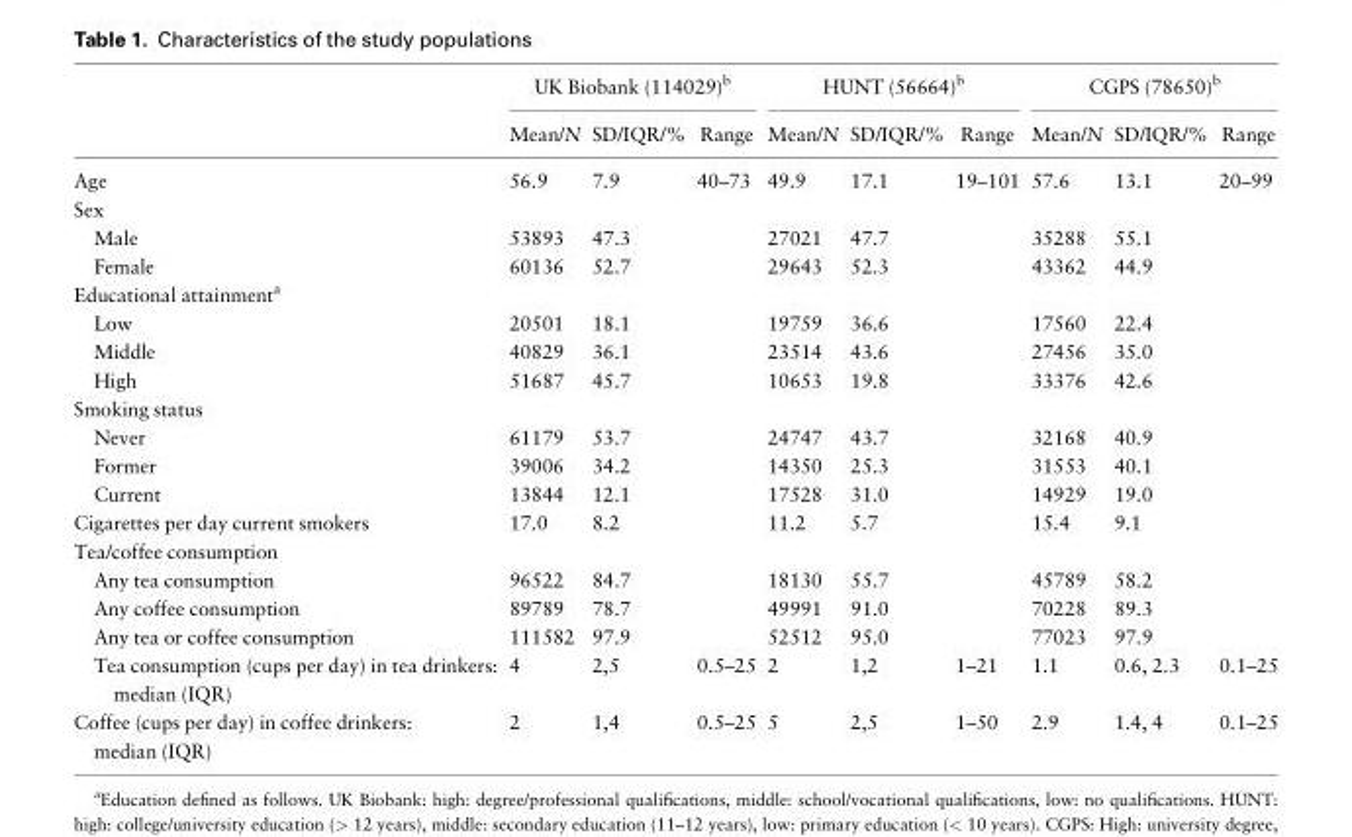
<table><thead><tr><td rowspan="2"></td><td colspan="3">UK Biobank (114029)<sup>b</sup></td><td colspan="3">HUNT (56664)<sup>b</sup></td><td colspan="3">CGPS (78650)<sup>b</sup></td></tr><tr><td>Mean/N</td><td>SD/IQR/%</td><td>Range</td><td>Mean/N</td><td>SD/IQR/%</td><td>Range</td><td>Mean/N</td><td>SD/IQR/%</td><td>Range</td></tr></thead><tbody><tr><td>Age</td><td>56.9</td><td>7.9</td><td>40–73</td><td>49.9</td><td>17.1</td><td>19–101</td><td>57.6</td><td>13.1</td><td>20–99</td></tr><tr><td colspan="10">Sex</td></tr><tr><td>Male</td><td>53893</td><td>47.3</td><td></td><td>27021</td><td>47.7</td><td></td><td>35288</td><td>55.1</td><td></td></tr><tr><td>Female</td><td>60136</td><td>52.7</td><td></td><td>29643</td><td>52.3</td><td></td><td>43362</td><td>44.9</td><td></td></tr><tr><td colspan="10">Educational attainment<sup>a</sup></td></tr><tr><td>Low</td><td>20501</td><td>18.1</td><td></td><td>19759</td><td>36.6</td><td></td><td>17560</td><td>22.4</td><td></td></tr><tr><td>Middle</td><td>40829</td><td>36.1</td><td></td><td>23514</td><td>43.6</td><td></td><td>27456</td><td>35.0</td><td></td></tr><tr><td>High</td><td>51687</td><td>45.7</td><td></td><td>10653</td><td>19.8</td><td></td><td>33376</td><td>42.6</td><td></td></tr><tr><td colspan="10">Smoking status</td></tr><tr><td>Never</td><td>61179</td><td>53.7</td><td></td><td>24747</td><td>43.7</td><td></td><td>32168</td><td>40.9</td><td></td></tr><tr><td>Former</td><td>39006</td><td>34.2</td><td></td><td>14350</td><td>25.3</td><td></td><td>31553</td><td>40.1</td><td></td></tr><tr><td>Current</td><td>13844</td><td>12.1</td><td></td><td>17528</td><td>31.0</td><td></td><td>14929</td><td>19.0</td><td></td></tr><tr><td>Cigarettes per day current smokers</td><td>17.0</td><td>8.2</td><td></td><td>11.2</td><td>5.7</td><td></td><td>15.4</td><td>9.1</td><td></td></tr><tr><td colspan="10">Tea/coffee consumption</td></tr><tr><td>Any tea consumption</td><td>96522</td><td>84.7</td><td></td><td>18130</td><td>55.7</td><td></td><td>45789</td><td>58.2</td><td></td></tr><tr><td>Any coffee consumption</td><td>89789</td><td>78.7</td><td></td><td>49991</td><td>91.0</td><td></td><td>70228</td><td>89.3</td><td></td></tr><tr><td>Any tea or coffee consumption</td><td>111582</td><td>97.9</td><td></td><td>52512</td><td>95.0</td><td></td><td>77023</td><td>97.9</td><td></td></tr><tr><td>Tea consumption (cups per day) in tea drinkers: median (IQR)</td><td>4</td><td>2,5</td><td>0.5–25</td><td>2</td><td>1,2</td><td>1–21</td><td>1.1</td><td>0.6, 2.3</td><td>0.1–25</td></tr><tr><td>Coffee (cups per day) in coffee drinkers: median (IQR)</td><td>2</td><td>1,4</td><td>0.5–25</td><td>5</td><td>2,5</td><td>1–50</td><td>2.9</td><td>1.4, 4</td><td>0.1–25</td></tr></tbody></table>